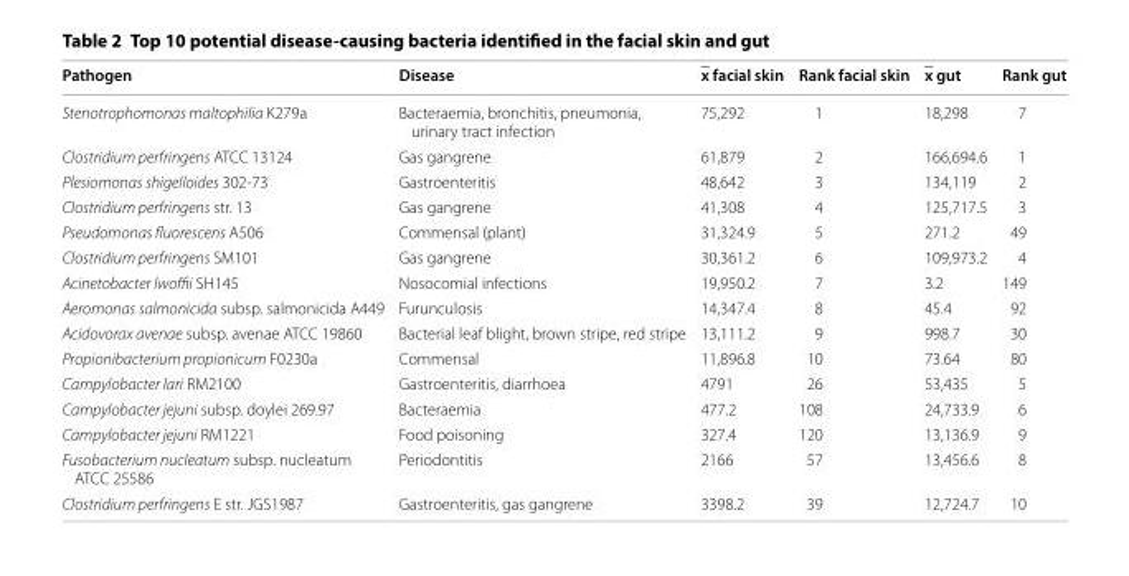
<table><thead><tr><td>Pathogen</td><td>Disease</td><td>x̅ facial skin</td><td>Rank facial skin</td><td>x̅ gut</td><td>Rank gut</td></tr></thead><tbody><tr><td>Stenotrophomonas maltophilia K279a</td><td>Bacteraemia, bronchitis, pneumonia, urinary tract infection</td><td>75,292</td><td>1</td><td>18,298</td><td>7</td></tr><tr><td>Clostridium perfringens ATCC 13124</td><td>Gas gangrene</td><td>61,879</td><td>2</td><td>166,694.6</td><td>1</td></tr><tr><td>Plesiomonas shigelloides 302‑73</td><td>Gastroenteritis</td><td>48,642</td><td>3</td><td>134,119</td><td>2</td></tr><tr><td>Clostridium perfringens str. 13</td><td>Gas gangrene</td><td>41,308</td><td>4</td><td>125,717.5</td><td>3</td></tr><tr><td>Pseudomonas fluorescens A506</td><td>Commensal (plant)</td><td>31,324.9</td><td>5</td><td>271.2</td><td>49</td></tr><tr><td>Clostridium perfringens SM101</td><td>Gas gangrene</td><td>30,361.2</td><td>6</td><td>109,973.2</td><td>4</td></tr><tr><td>Acinetobacter lwoffii SH145</td><td>Nosocomial infections</td><td>19,950.2</td><td>7</td><td>3.2</td><td>149</td></tr><tr><td>Aeromonas salmonicida subsp. salmonicida A449</td><td>Furunculosis</td><td>14,347.4</td><td>8</td><td>45.4</td><td>92</td></tr><tr><td>Acidovorax avenae subsp. avenae ATCC 19860</td><td>Bacterial leaf blight, brown stripe, red stripe</td><td>13,111.2</td><td>9</td><td>998.7</td><td>30</td></tr><tr><td>Propionibacterium propionicum F0230a</td><td>Commensal</td><td>11,896.8</td><td>10</td><td>73.64</td><td>80</td></tr><tr><td>Campylobacter lari RM2100</td><td>Gastroenteritis, diarrhoea</td><td>4791</td><td>26</td><td>53,435</td><td>5</td></tr><tr><td>Campylobacter jejuni subsp. doylei 269.97</td><td>Bacteraemia</td><td>477.2</td><td>108</td><td>24,733.9</td><td>6</td></tr><tr><td>Campylobacter jejuni RM1221</td><td>Food poisoning</td><td>327.4</td><td>120</td><td>13,136.9</td><td>9</td></tr><tr><td>Fusobacterium nucleatum subsp. nucleatum ATCC 25586</td><td>Periodontitis</td><td>2166</td><td>57</td><td>13,456.6</td><td>8</td></tr><tr><td>Clostridium perfringens E str. JGS1987</td><td>Gastroenteritis, gas gangrene</td><td>3398.2</td><td>39</td><td>12,724.7</td><td>10</td></tr></tbody></table>